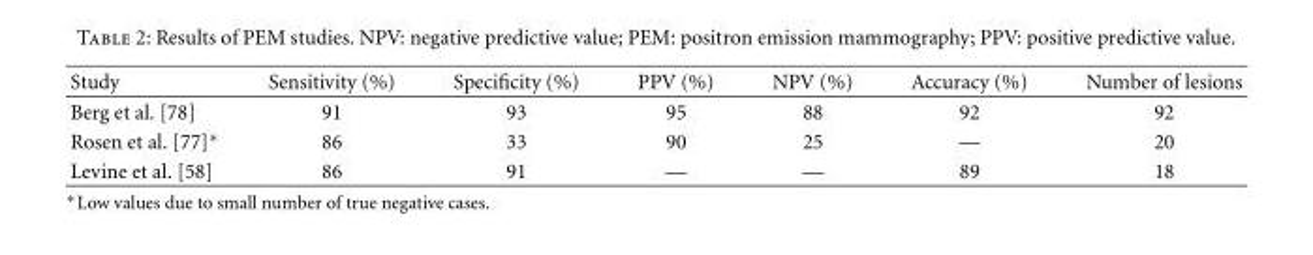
<table><thead><tr><td>Study</td><td>Sensitivity (%)</td><td>Specificity (%)</td><td>PPV (%)</td><td>NPV (%)</td><td>Accuracy (%)</td><td>Number of lesions</td></tr></thead><tbody><tr><td>Berg et al. [78]</td><td>91</td><td>93</td><td>95</td><td>88</td><td>92</td><td>92</td></tr><tr><td>Rosen et al. [77]∗</td><td>86</td><td>33</td><td>90</td><td>25</td><td>—</td><td>20</td></tr><tr><td>Levine et al. [58]</td><td>86</td><td>91</td><td>—</td><td>—</td><td>89</td><td>18</td></tr></tbody></table>